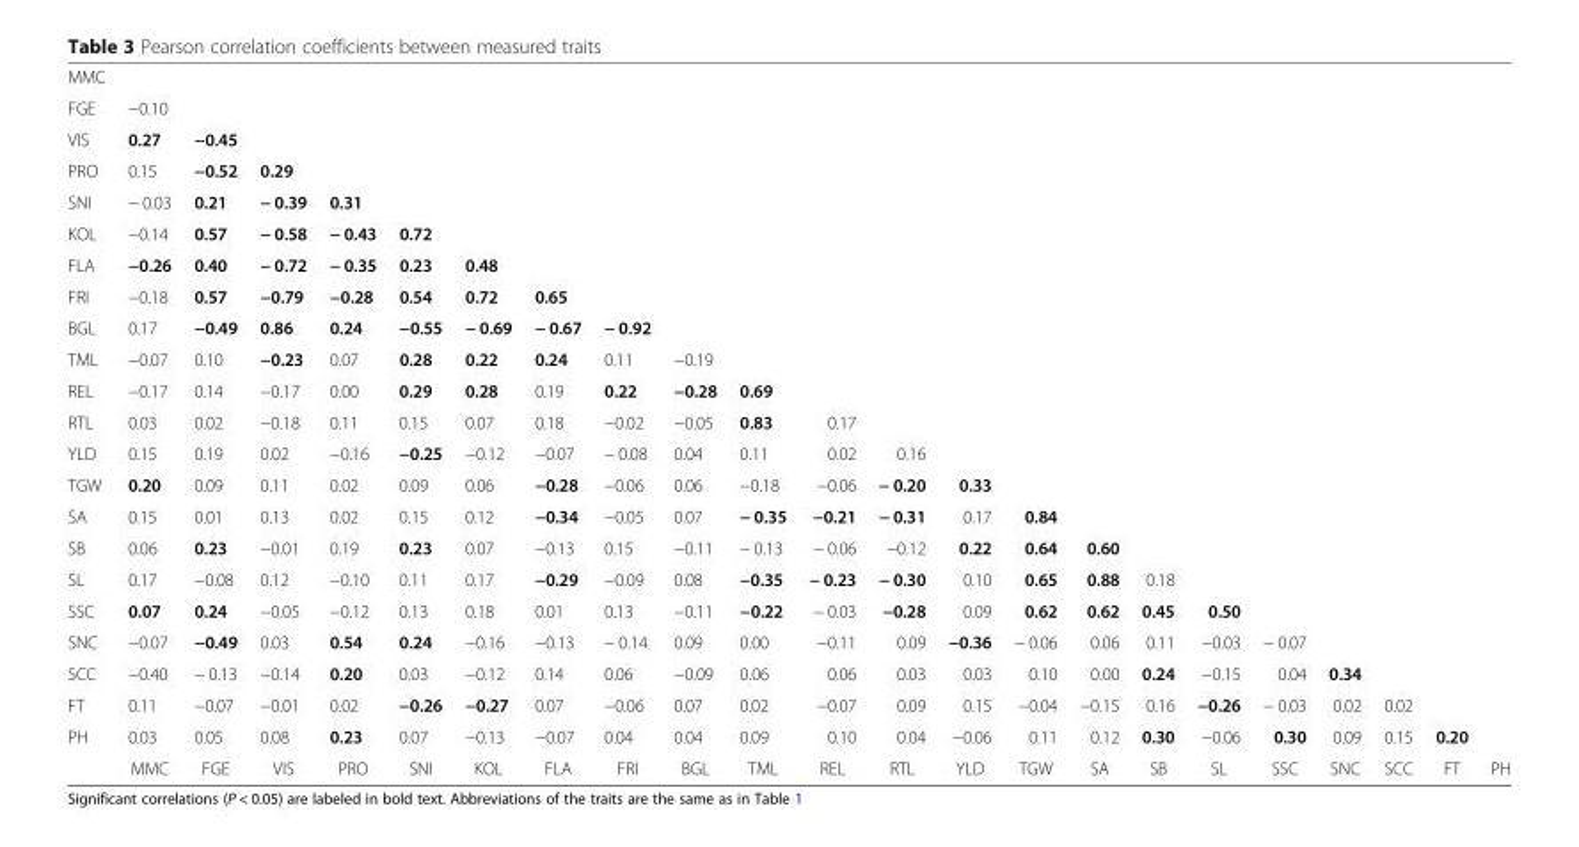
<table><tbody><tr><td colspan="23">MMC</td></tr><tr><td>FGE</td><td>−0.10</td><td></td><td></td><td></td><td></td><td></td><td></td><td></td><td></td><td></td><td></td><td></td><td></td><td></td><td></td><td></td><td></td><td></td><td></td><td></td><td></td><td></td></tr><tr><td>VIS</td><td>0.27</td><td>−0.45</td><td></td><td></td><td></td><td></td><td></td><td></td><td></td><td></td><td></td><td></td><td></td><td></td><td></td><td></td><td></td><td></td><td></td><td></td><td></td><td></td></tr><tr><td>PRO</td><td>0.15</td><td>−0.52</td><td>0.29</td><td></td><td></td><td></td><td></td><td></td><td></td><td></td><td></td><td></td><td></td><td></td><td></td><td></td><td></td><td></td><td></td><td></td><td></td><td></td></tr><tr><td>SNI</td><td>− 0.03</td><td>0.21</td><td>− 0.39</td><td>0.31</td><td></td><td></td><td></td><td></td><td></td><td></td><td></td><td></td><td></td><td></td><td></td><td></td><td></td><td></td><td></td><td></td><td></td><td></td></tr><tr><td>KOL</td><td>−0.14</td><td>0.57</td><td>− 0.58</td><td>− 0.43</td><td>0.72</td><td></td><td></td><td></td><td></td><td></td><td></td><td></td><td></td><td></td><td></td><td></td><td></td><td></td><td></td><td></td><td></td><td></td></tr><tr><td>FLA</td><td>−0.26</td><td>0.40</td><td>− 0.72</td><td>− 0.35</td><td>0.23</td><td>0.48</td><td></td><td></td><td></td><td></td><td></td><td></td><td></td><td></td><td></td><td></td><td></td><td></td><td></td><td></td><td></td><td></td></tr><tr><td>FRI</td><td>−0.18</td><td>0.57</td><td>−0.79</td><td>−0.28</td><td>0.54</td><td>0.72</td><td>0.65</td><td></td><td></td><td></td><td></td><td></td><td></td><td></td><td></td><td></td><td></td><td></td><td></td><td></td><td></td><td></td></tr><tr><td>BGL</td><td>0.17</td><td>−0.49</td><td>0.86</td><td>0.24</td><td>−0.55</td><td>− 0.69</td><td>− 0.67</td><td>− 0.92</td><td></td><td></td><td></td><td></td><td></td><td></td><td></td><td></td><td></td><td></td><td></td><td></td><td></td><td></td></tr><tr><td>TML</td><td>−0.07</td><td>0.10</td><td>−0.23</td><td>0.07</td><td>0.28</td><td>0.22</td><td>0.24</td><td>0.11</td><td>−0.19</td><td></td><td></td><td></td><td></td><td></td><td></td><td></td><td></td><td></td><td></td><td></td><td></td><td></td></tr><tr><td>REL</td><td>−0.17</td><td>0.14</td><td>−0.17</td><td>0.00</td><td>0.29</td><td>0.28</td><td>0.19</td><td>0.22</td><td>−0.28</td><td>0.69</td><td></td><td></td><td></td><td></td><td></td><td></td><td></td><td></td><td></td><td></td><td></td><td></td></tr><tr><td>RTL</td><td>0.03</td><td>0.02</td><td>−0.18</td><td>0.11</td><td>0.15</td><td>0.07</td><td>0.18</td><td>−0.02</td><td>−0.05</td><td>0.83</td><td>0.17</td><td></td><td></td><td></td><td></td><td></td><td></td><td></td><td></td><td></td><td></td><td></td></tr><tr><td>YLD</td><td>0.15</td><td>0.19</td><td>0.02</td><td>−0.16</td><td>−0.25</td><td>−0.12</td><td>−0.07</td><td>− 0.08</td><td>0.04</td><td>0.11</td><td>0.02</td><td>0.16</td><td></td><td></td><td></td><td></td><td></td><td></td><td></td><td></td><td></td><td></td></tr><tr><td>TGW</td><td>0.20</td><td>0.09</td><td>0.11</td><td>0.02</td><td>0.09</td><td>0.06</td><td>−0.28</td><td>−0.06</td><td>0.06</td><td>−0.18</td><td>−0.06</td><td>− 0.20</td><td>0.33</td><td></td><td></td><td></td><td></td><td></td><td></td><td></td><td></td><td></td></tr><tr><td>SA</td><td>0.15</td><td>0.01</td><td>0.13</td><td>0.02</td><td>0.15</td><td>0.12</td><td>−0.34</td><td>−0.05</td><td>0.07</td><td>− 0.35</td><td>−0.21</td><td>− 0.31</td><td>0.17</td><td>0.84</td><td></td><td></td><td></td><td></td><td></td><td></td><td></td><td></td></tr><tr><td>SB</td><td>0.06</td><td>0.23</td><td>−0.01</td><td>0.19</td><td>0.23</td><td>0.07</td><td>−0.13</td><td>0.15</td><td>−0.11</td><td>− 0.13</td><td>− 0.06</td><td>−0.12</td><td>0.22</td><td>0.64</td><td>0.60</td><td></td><td></td><td></td><td></td><td></td><td></td><td></td></tr><tr><td>SL</td><td>0.17</td><td>−0.08</td><td>0.12</td><td>−0.10</td><td>0.11</td><td>0.17</td><td>−0.29</td><td>−0.09</td><td>0.08</td><td>−0.35</td><td>− 0.23</td><td>− 0.30</td><td>0.10</td><td>0.65</td><td>0.88</td><td>0.18</td><td></td><td></td><td></td><td></td><td></td><td></td></tr><tr><td>SSC</td><td>0.07</td><td>0.24</td><td>−0.05</td><td>−0.12</td><td>0.13</td><td>0.18</td><td>0.01</td><td>0.13</td><td>−0.11</td><td>−0.22</td><td>− 0.03</td><td>−0.28</td><td>0.09</td><td>0.62</td><td>0.62</td><td>0.45</td><td>0.50</td><td></td><td></td><td></td><td></td><td></td></tr><tr><td>SNC</td><td>−0.07</td><td>−0.49</td><td>0.03</td><td>0.54</td><td>0.24</td><td>−0.16</td><td>−0.13</td><td>− 0.14</td><td>0.09</td><td>0.00</td><td>−0.11</td><td>0.09</td><td>−0.36</td><td>− 0.06</td><td>0.06</td><td>0.11</td><td>−0.03</td><td>− 0.07</td><td></td><td></td><td></td><td></td></tr><tr><td>SCC</td><td>−0.40</td><td>− 0.13</td><td>−0.14</td><td>0.20</td><td>0.03</td><td>−0.12</td><td>0.14</td><td>0.06</td><td>−0.09</td><td>0.06</td><td>0.06</td><td>0.03</td><td>0.03</td><td>0.10</td><td>0.00</td><td>0.24</td><td>−0.15</td><td>0.04</td><td>0.34</td><td></td><td></td><td></td></tr><tr><td>FT</td><td>0.11</td><td>−0.07</td><td>−0.01</td><td>0.02</td><td>−0.26</td><td>−0.27</td><td>0.07</td><td>−0.06</td><td>0.07</td><td>0.02</td><td>−0.07</td><td>0.09</td><td>0.15</td><td>−0.04</td><td>−0.15</td><td>0.16</td><td>−0.26</td><td>− 0.03</td><td>0.02</td><td>0.02</td><td></td><td></td></tr><tr><td rowspan="2">PH</td><td>0.03</td><td>0.05</td><td>0.08</td><td>0.23</td><td>0.07</td><td>−0.13</td><td>−0.07</td><td>0.04</td><td>0.04</td><td>0.09</td><td>0.10</td><td>0.04</td><td>−0.06</td><td>0.11</td><td>0.12</td><td>0.30</td><td>−0.06</td><td>0.30</td><td>0.09</td><td>0.15</td><td>0.20</td><td></td></tr><tr><td>MMC</td><td>FGE</td><td>VIS</td><td>PRO</td><td>SNI</td><td>KOL</td><td>FLA</td><td>FRI</td><td>BGL</td><td>TML</td><td>REL</td><td>RTL</td><td>YLD</td><td>TGW</td><td>SA</td><td>SB</td><td>SL</td><td>SSC</td><td>SNC</td><td>SCC</td><td>FT</td><td>PH</td></tr></tbody></table>